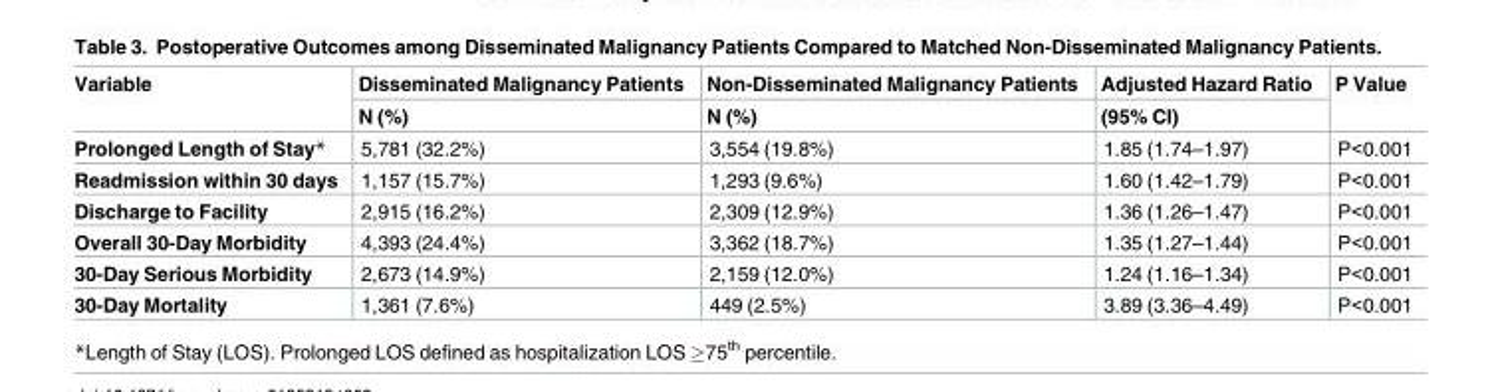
<table><thead><tr><td rowspan="2">Variable</td><td rowspan="2">Disseminated Malignancy Patients N (%)</td><td rowspan="2">Non-Disseminated Malignancy Patients N (%)</td><td rowspan="2">Adjusted Hazard Ratio (95% CI)</td><td rowspan="2">P Value</td></tr><tr></tr></thead><tbody><tr><td>Prolonged Length of Stay*</td><td>5,781 (32.2%)</td><td>3,554 (19.8%)</td><td>1.85 (1.74–1.97)</td><td>P&lt;0.001</td></tr><tr><td>Readmission within 30 days</td><td>1,157 (15.7%)</td><td>1,293 (9.6%)</td><td>1.60 (1.42–1.79)</td><td>P&lt;0.001</td></tr><tr><td>Discharge to Facility</td><td>2,915 (16.2%)</td><td>2,309 (12.9%)</td><td>1.36 (1.26–1.47)</td><td>P&lt;0.001</td></tr><tr><td>Overall 30-Day Morbidity</td><td>4,393 (24.4%)</td><td>3,362 (18.7%)</td><td>1.35 (1.27–1.44)</td><td>P&lt;0.001</td></tr><tr><td>30-Day Serious Morbidity</td><td>2,673 (14.9%)</td><td>2,159 (12.0%)</td><td>1.24 (1.16–1.34)</td><td>P&lt;0.001</td></tr><tr><td>30-Day Mortality</td><td>1,361 (7.6%)</td><td>449 (2.5%)</td><td>3.89 (3.36–4.49)</td><td>P&lt;0.001</td></tr></tbody></table>